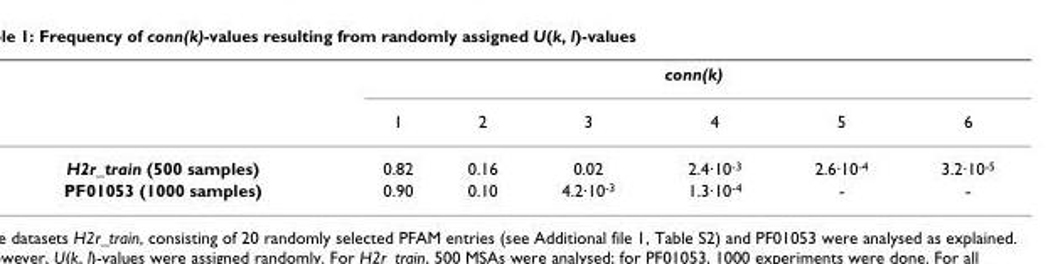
<table><thead><tr><td rowspan="2"></td><td colspan="6">conn(k)</td></tr><tr><td>1</td><td>2</td><td>3</td><td>4</td><td>5</td><td>6</td></tr></thead><tbody><tr><td>H2r_train (500 samples)</td><td>0.82</td><td>0.16</td><td>0.02</td><td>2.4·10<sup>-3</sup></td><td>2.6·10<sup>-4</sup></td><td>3.2·10<sup>-5</sup></td></tr><tr><td>PF01053 (1000 samples)</td><td>0.90</td><td>0.10</td><td>4.2·10<sup>-3</sup></td><td>1.3·10<sup>-4</sup></td><td>-</td><td>-</td></tr></tbody></table>